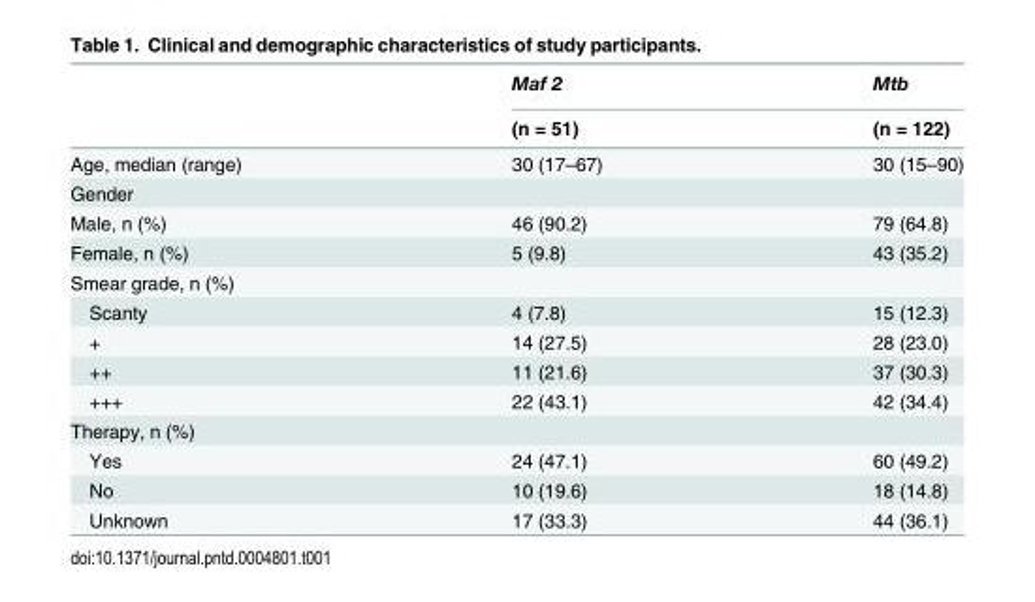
<table><thead><tr><td rowspan="2"></td><td rowspan="2">Maf 2 (n = 51)</td><td rowspan="2">Mtb (n = 122)</td></tr><tr></tr></thead><tbody><tr><td>Age, median (range)</td><td>30 (17–67)</td><td>30 (15–90)</td></tr><tr><td colspan="3">Gender</td></tr><tr><td>Male, n (%)</td><td>46 (90.2)</td><td>79 (64.8)</td></tr><tr><td>Female, n (%)</td><td>5 (9.8)</td><td>43 (35.2)</td></tr><tr><td colspan="3">Smear grade, n (%)</td></tr><tr><td>Scanty</td><td>4 (7.8)</td><td>15 (12.3)</td></tr><tr><td>+</td><td>14 (27.5)</td><td>28 (23.0)</td></tr><tr><td>++</td><td>11 (21.6)</td><td>37 (30.3)</td></tr><tr><td>+++</td><td>22 (43.1)</td><td>42 (34.4)</td></tr><tr><td colspan="3">Therapy, n (%)</td></tr><tr><td>Yes</td><td>24 (47.1)</td><td>60 (49.2)</td></tr><tr><td>No</td><td>10 (19.6)</td><td>18 (14.8)</td></tr><tr><td>Unknown</td><td>17 (33.3)</td><td>44 (36.1)</td></tr></tbody></table>